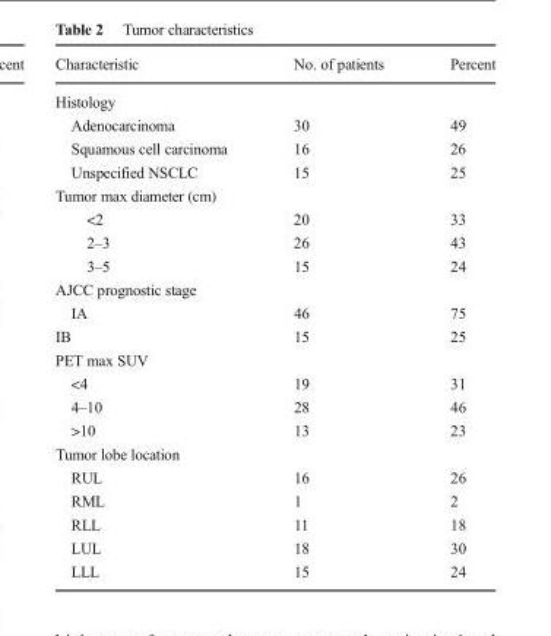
<table><thead><tr><td>Characteristic</td><td>No. of patients</td><td>Percent</td></tr></thead><tbody><tr><td colspan="3">Histology</td></tr><tr><td>Adenocarcinoma</td><td>30</td><td>49</td></tr><tr><td>Squamous cell carcinoma</td><td>16</td><td>26</td></tr><tr><td>Unspecified NSCLC</td><td>15</td><td>25</td></tr><tr><td colspan="3">Tumor max diameter (cm)</td></tr><tr><td>&lt;2</td><td>20</td><td>33</td></tr><tr><td>2–3</td><td>26</td><td>43</td></tr><tr><td>3–5</td><td>15</td><td>24</td></tr><tr><td colspan="3">AJCC prognostic stage</td></tr><tr><td>IA</td><td>46</td><td>75</td></tr><tr><td>IB</td><td>15</td><td>25</td></tr><tr><td colspan="3">PET max SUV</td></tr><tr><td>&lt;4</td><td>19</td><td>31</td></tr><tr><td>4–10</td><td>28</td><td>46</td></tr><tr><td>&gt;10</td><td>13</td><td>23</td></tr><tr><td colspan="3">Tumor lobe location</td></tr><tr><td>RUL</td><td>16</td><td>26</td></tr><tr><td>RML</td><td>1</td><td>2</td></tr><tr><td>RLL</td><td>11</td><td>18</td></tr><tr><td>LUL</td><td>18</td><td>30</td></tr><tr><td>LLL</td><td>15</td><td>24</td></tr></tbody></table>